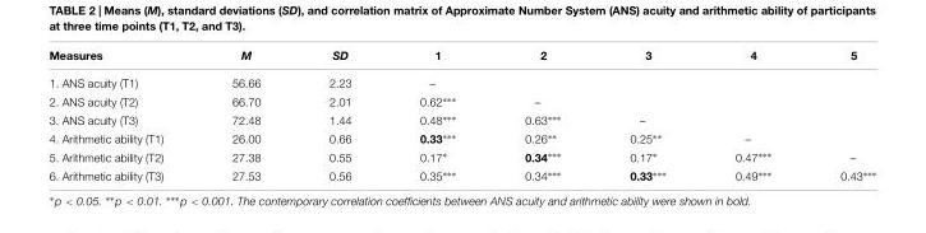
<table><thead><tr><td>Measures</td><td>M</td><td>SD</td><td>1</td><td>2</td><td>3</td><td>4</td><td>5</td></tr></thead><tbody><tr><td>1. ANS acuity (T1)</td><td>56.66</td><td>2.23</td><td>–</td><td></td><td></td><td></td><td></td></tr><tr><td>2. ANS acuity (T2)</td><td>66.70</td><td>2.01</td><td>0.62∗∗∗</td><td>–</td><td></td><td></td><td></td></tr><tr><td>3. ANS acuity (T3)</td><td>72.48</td><td>1.44</td><td>0.48∗∗∗</td><td>0.63∗∗∗</td><td>–</td><td></td><td></td></tr><tr><td>4. Arithmetic ability (T1)</td><td>26.00</td><td>0.66</td><td>0.33∗∗∗</td><td>0.26∗∗</td><td>0.25∗∗</td><td>–</td><td></td></tr><tr><td>5. Arithmetic ability (T2)</td><td>27.38</td><td>0.55</td><td>0.17∗</td><td>0.34∗∗∗</td><td>0.17∗</td><td>0.47∗∗∗</td><td>–</td></tr><tr><td>6. Arithmetic ability (T3)</td><td>27.53</td><td>0.56</td><td>0.35∗∗∗</td><td>0.34∗∗∗</td><td>0.33∗∗∗</td><td>0.49∗∗∗</td><td>0.43∗∗∗</td></tr></tbody></table>